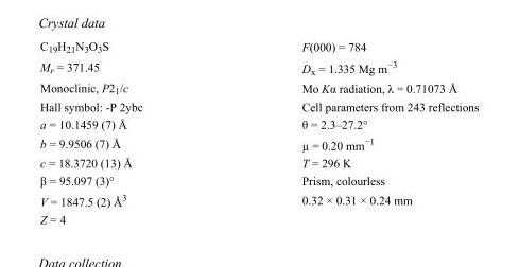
<table><tbody><tr><td>C<sub>19</sub>H<sub>21</sub>N<sub>3</sub>O<sub>3</sub>S</td><td>F(000) = 784</td></tr><tr><td>M<sub>r</sub> = 371.45</td><td>D<sub>x</sub> = 1.335 Mg m<sup>−3</sup></td></tr><tr><td>Monoclinic, P2<sub>1</sub>/c</td><td>Mo Kα radiation, λ = 0.71073 Å</td></tr><tr><td>Hall symbol: -P 2ybc</td><td>Cell parameters from 243 reflections</td></tr><tr><td>a = 10.1459 (7) Å</td><td>θ = 2.3–27.2°</td></tr><tr><td>b = 9.9506 (7) Å</td><td>µ = 0.20 mm<sup>−1</sup></td></tr><tr><td>c = 18.3720 (13) Å</td><td>T = 296 K</td></tr><tr><td>β = 95.097 (3)°</td><td>Prism, colourless</td></tr><tr><td>V = 1847.5 (2) Å<sup>3</sup></td><td>0.32 × 0.31 × 0.24 mm</td></tr><tr><td>Z = 4</td><td></td></tr></tbody></table>